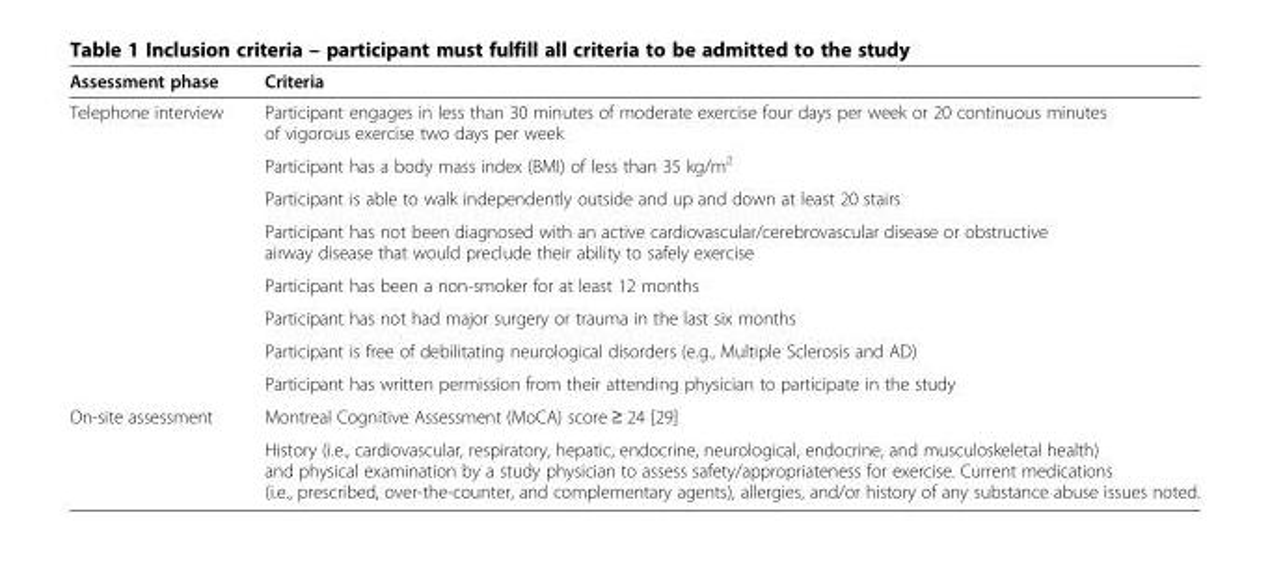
<table><thead><tr><td>Assessment phase</td><td>Criteria</td></tr></thead><tbody><tr><td rowspan="8">Telephone interview</td><td>Participant engages in less than 30 minutes of moderate exercise four days per week or 20 continuous minutes of vigorous exercise two days per week</td></tr><tr><td>Participant has a body mass index (BMI) of less than 35 kg/m<sup>2</sup></td></tr><tr><td>Participant is able to walk independently outside and up and down at least 20 stairs</td></tr><tr><td>Participant has not been diagnosed with an active cardiovascular/cerebrovascular disease or obstructive airway disease that would preclude their ability to safely exercise</td></tr><tr><td>Participant has been a non-smoker for at least 12 months</td></tr><tr><td>Participant has not had major surgery or trauma in the last six months</td></tr><tr><td>Participant is free of debilitating neurological disorders (e.g., Multiple Sclerosis and AD)</td></tr><tr><td>Participant has written permission from their attending physician to participate in the study</td></tr><tr><td rowspan="2">On-site assessment</td><td>Montreal Cognitive Assessment (MoCA) score ≥ 24 [29]</td></tr><tr><td>History (i.e., cardiovascular, respiratory, hepatic, endocrine, neurological, endocrine, and musculoskeletal health) and physical examination by a study physician to assess safety/appropriateness for exercise. Current medications (i.e., prescribed, over-the-counter, and complementary agents), allergies, and/or history of any substance abuse issues noted.</td></tr></tbody></table>